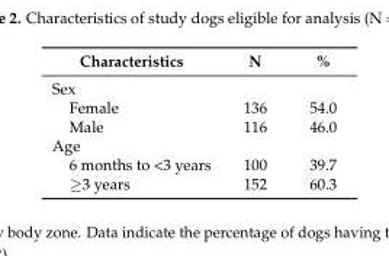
<table><thead><tr><td>Characteristics</td><td>N</td><td>%</td></tr></thead><tbody><tr><td colspan="3">Sex</td></tr><tr><td>Female</td><td>136</td><td>54.0</td></tr><tr><td>Male</td><td>116</td><td>46.0</td></tr><tr><td colspan="3">Age</td></tr><tr><td>6 months to &lt;3 years</td><td>100</td><td>39.7</td></tr><tr><td>≥3 years</td><td>152</td><td>60.3</td></tr></tbody></table>